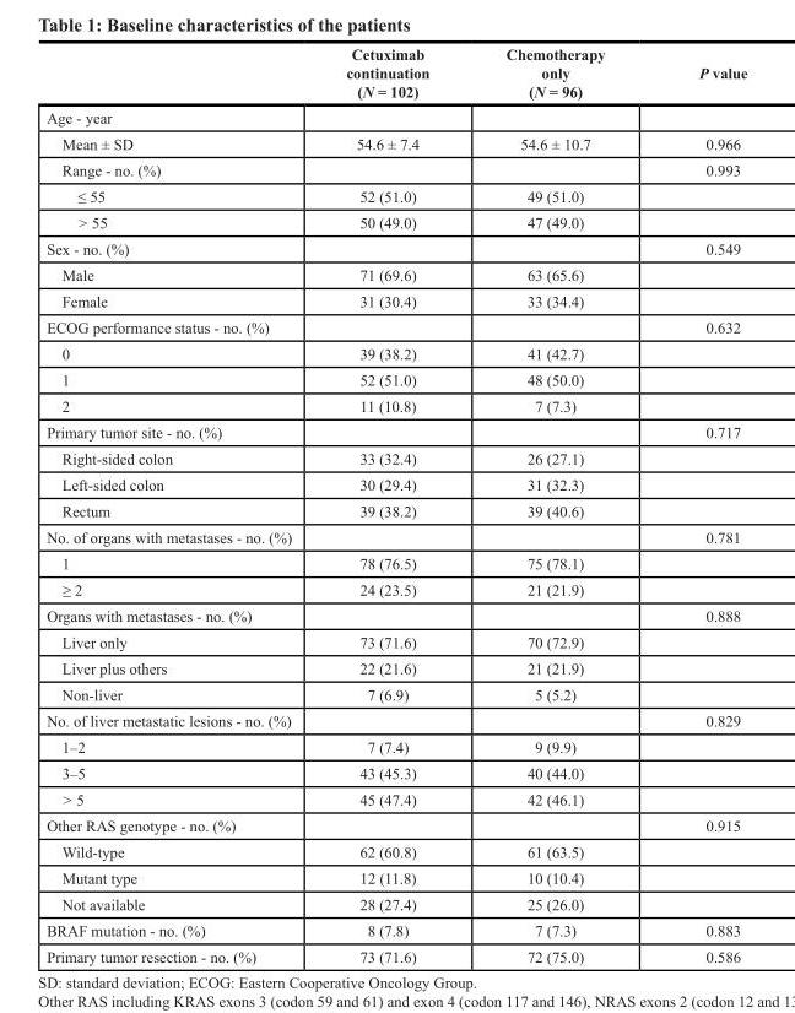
<table><thead><tr><td></td><td>Cetuximab continuation (N = 102)</td><td>Chemotherapy only (N = 96)</td><td>P value</td></tr></thead><tbody><tr><td colspan="4">Age - year</td></tr><tr><td>Mean ± SD</td><td>54.6 ± 7.4</td><td>54.6 ± 10.7</td><td>0.966</td></tr><tr><td>Range - no. (%)</td><td></td><td></td><td>0.993</td></tr><tr><td>≤ 55</td><td>52 (51.0)</td><td>49 (51.0)</td><td></td></tr><tr><td>&gt; 55</td><td>50 (49.0)</td><td>47 (49.0)</td><td></td></tr><tr><td>Sex - no. (%)</td><td></td><td></td><td>0.549</td></tr><tr><td>Male</td><td>71 (69.6)</td><td>63 (65.6)</td><td></td></tr><tr><td>Female</td><td>31 (30.4)</td><td>33 (34.4)</td><td></td></tr><tr><td>ECOG performance status - no. (%)</td><td></td><td></td><td>0.632</td></tr><tr><td>0</td><td>39 (38.2)</td><td>41 (42.7)</td><td></td></tr><tr><td>1</td><td>52 (51.0)</td><td>48 (50.0)</td><td></td></tr><tr><td>2</td><td>11 (10.8)</td><td>7 (7.3)</td><td></td></tr><tr><td>Primary tumor site - no. (%)</td><td></td><td></td><td>0.717</td></tr><tr><td>Right-sided colon</td><td>33 (32.4)</td><td>26 (27.1)</td><td></td></tr><tr><td>Left-sided colon</td><td>30 (29.4)</td><td>31 (32.3)</td><td></td></tr><tr><td>Rectum</td><td>39 (38.2)</td><td>39 (40.6)</td><td></td></tr><tr><td>No. of organs with metastases - no. (%)</td><td></td><td></td><td>0.781</td></tr><tr><td>1</td><td>78 (76.5)</td><td>75 (78.1)</td><td></td></tr><tr><td>≥ 2</td><td>24 (23.5)</td><td>21 (21.9)</td><td></td></tr><tr><td>Organs with metastases - no. (%)</td><td></td><td></td><td>0.888</td></tr><tr><td>Liver only</td><td>73 (71.6)</td><td>70 (72.9)</td><td></td></tr><tr><td>Liver plus others</td><td>22 (21.6)</td><td>21 (21.9)</td><td></td></tr><tr><td>Non-liver</td><td>7 (6.9)</td><td>5 (5.2)</td><td></td></tr><tr><td>No. of liver metastatic lesions - no. (%)</td><td></td><td></td><td>0.829</td></tr><tr><td>1–2</td><td>7 (7.4)</td><td>9 (9.9)</td><td></td></tr><tr><td>3–5</td><td>43 (45.3)</td><td>40 (44.0)</td><td></td></tr><tr><td>&gt; 5</td><td>45 (47.4)</td><td>42 (46.1)</td><td></td></tr><tr><td>Other RAS genotype - no. (%)</td><td></td><td></td><td>0.915</td></tr><tr><td>Wild-type</td><td>62 (60.8)</td><td>61 (63.5)</td><td></td></tr><tr><td>Mutant type</td><td>12 (11.8)</td><td>10 (10.4)</td><td></td></tr><tr><td>Not available</td><td>28 (27.4)</td><td>25 (26.0)</td><td></td></tr><tr><td>BRAF mutation - no. (%)</td><td>8 (7.8)</td><td>7 (7.3)</td><td>0.883</td></tr><tr><td>Primary tumor resection - no. (%)</td><td>73 (71.6)</td><td>72 (75.0)</td><td>0.586</td></tr></tbody></table>